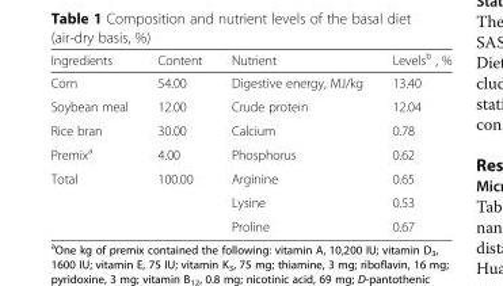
<table><thead><tr><td>Ingredients</td><td>Content</td><td>Nutrient</td><td>Levels<sup>b</sup> , %</td></tr></thead><tbody><tr><td>Corn</td><td>54.00</td><td>Digestive energy, MJ/kg</td><td>13.40</td></tr><tr><td>Soybean meal</td><td>12.00</td><td>Crude protein</td><td>12.04</td></tr><tr><td>Rice bran</td><td>30.00</td><td>Calcium</td><td>0.78</td></tr><tr><td>Premix<sup>a</sup></td><td>4.00</td><td>Phosphorus</td><td>0.62</td></tr><tr><td rowspan="3">Total</td><td>100.00</td><td>Arginine</td><td>0.65</td></tr><tr><td></td><td>Lysine</td><td>0.53</td></tr><tr><td></td><td>Proline</td><td>0.67</td></tr></tbody></table>